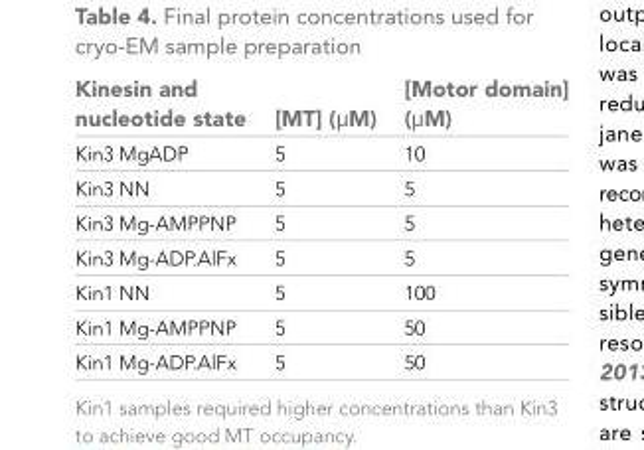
<table><thead><tr><td>Kinesin and nucleotide state</td><td>[MT] (μM)</td><td>[Motor domain] (μM)</td></tr></thead><tbody><tr><td>Kin3 MgADP</td><td>5</td><td>10</td></tr><tr><td>Kin3 NN</td><td>5</td><td>5</td></tr><tr><td>Kin3 Mg-AMPPNP</td><td>5</td><td>5</td></tr><tr><td>Kin3 Mg-ADP.AlFx</td><td>5</td><td>5</td></tr><tr><td>Kin1 NN</td><td>5</td><td>100</td></tr><tr><td>Kin1 Mg-AMPPNP</td><td>5</td><td>50</td></tr><tr><td>Kin1 Mg-ADP.AlFx</td><td>5</td><td>50</td></tr></tbody></table>